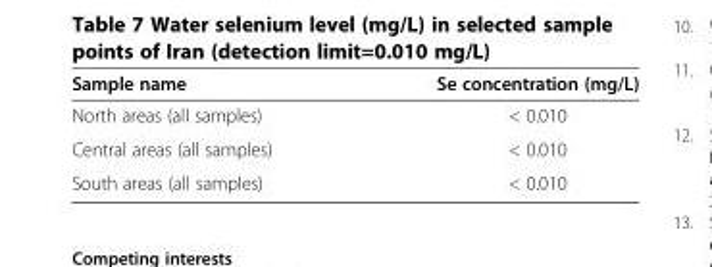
<table><thead><tr><td>Sample name</td><td>Se concentration (mg/L)</td></tr></thead><tbody><tr><td>North areas (all samples)</td><td>&lt; 0.010</td></tr><tr><td>Central areas (all samples)</td><td>&lt; 0.010</td></tr><tr><td>South areas (all samples)</td><td>&lt; 0.010</td></tr></tbody></table>